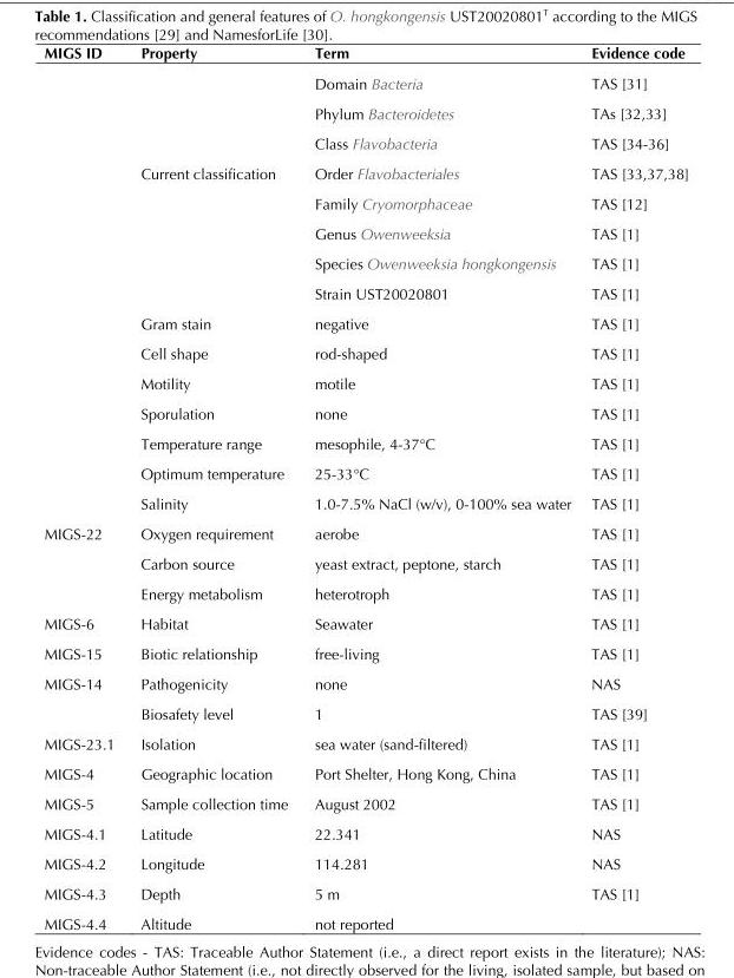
<table><thead><tr><td>MIGS ID</td><td>Property</td><td>Term</td><td>Evidence code</td></tr></thead><tbody><tr><td></td><td></td><td>Domain Bacteria</td><td>TAS [31]</td></tr><tr><td></td><td></td><td>Phylum Bacteroidetes</td><td>TAs [32,33]</td></tr><tr><td></td><td></td><td>Class Flavobacteria</td><td>TAS [34-36]</td></tr><tr><td></td><td>Current classification</td><td>Order Flavobacteriales</td><td>TAS [33,37,38]</td></tr><tr><td></td><td></td><td>Family Cryomorphaceae</td><td>TAS [12]</td></tr><tr><td></td><td></td><td>Genus Owenweeksia</td><td>TAS [1]</td></tr><tr><td></td><td></td><td>Species Owenweeksia hongkongensis</td><td>TAS [1]</td></tr><tr><td></td><td></td><td>Strain UST20020801</td><td>TAS [1]</td></tr><tr><td></td><td>Gram stain</td><td>negative</td><td>TAS [1]</td></tr><tr><td></td><td>Cell shape</td><td>rod-shaped</td><td>TAS [1]</td></tr><tr><td></td><td>Motility</td><td>motile</td><td>TAS [1]</td></tr><tr><td></td><td>Sporulation</td><td>none</td><td>TAS [1]</td></tr><tr><td></td><td>Temperature range</td><td>mesophile, 4-37°C</td><td>TAS [1]</td></tr><tr><td></td><td>Optimum temperature</td><td>25-33°C</td><td>TAS [1]</td></tr><tr><td></td><td>Salinity</td><td>1.0-7.5% NaCl (w/v), 0-100% sea water</td><td>TAS [1]</td></tr><tr><td rowspan="3">MIGS-22</td><td>Oxygen requirement</td><td>aerobe</td><td>TAS [1]</td></tr><tr><td>Carbon source</td><td>yeast extract, peptone, starch</td><td>TAS [1]</td></tr><tr><td>Energy metabolism</td><td>heterotroph</td><td>TAS [1]</td></tr><tr><td>MIGS-6</td><td>Habitat</td><td>Seawater</td><td>TAS [1]</td></tr><tr><td>MIGS-15</td><td>Biotic relationship</td><td>free-living</td><td>TAS [1]</td></tr><tr><td rowspan="2">MIGS-14</td><td>Pathogenicity</td><td>none</td><td>NAS</td></tr><tr><td>Biosafety level</td><td>1</td><td>TAS [39]</td></tr><tr><td>MIGS-23.1</td><td>Isolation</td><td>sea water (sand-filtered)</td><td>TAS [1]</td></tr><tr><td>MIGS-4</td><td>Geographic location</td><td>Port Shelter, Hong Kong, China</td><td>TAS [1]</td></tr><tr><td>MIGS-5</td><td>Sample collection time</td><td>August 2002</td><td>TAS [1]</td></tr><tr><td>MIGS-4.1</td><td>Latitude</td><td>22.341</td><td>NAS</td></tr><tr><td>MIGS-4.2</td><td>Longitude</td><td>114.281</td><td>NAS</td></tr><tr><td>MIGS-4.3</td><td>Depth</td><td>5 m</td><td>TAS [1]</td></tr><tr><td>MIGS-4.4</td><td>Altitude</td><td>not reported</td><td></td></tr></tbody></table>